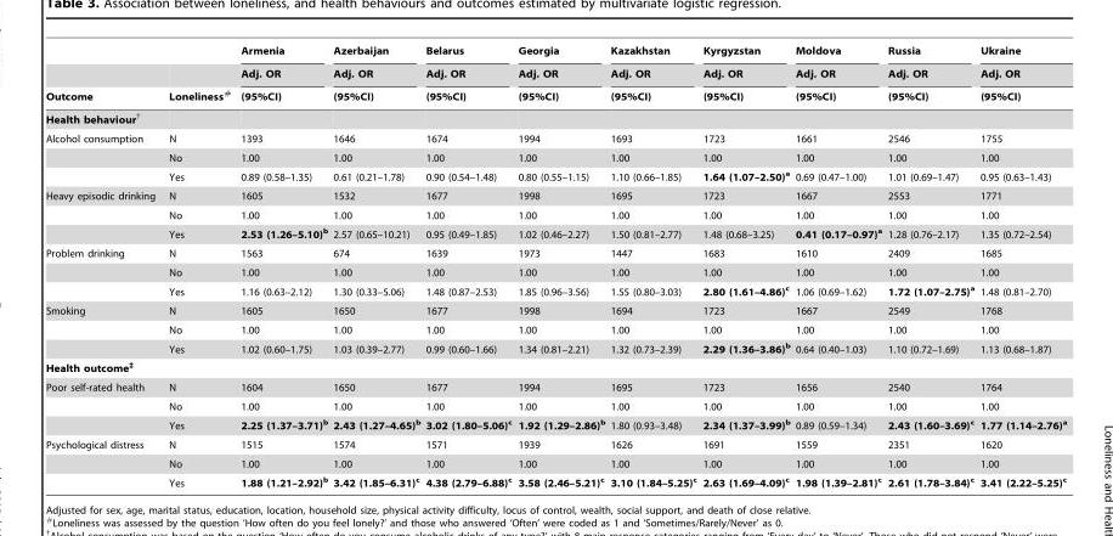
<table><thead><tr><td rowspan="3">Outcome</td><td rowspan="3">Loneliness#</td><td rowspan="3">Armenia Adj. OR (95%CI)</td><td rowspan="3">Azerbaijan Adj. OR (95%CI)</td><td rowspan="3">Belarus Adj. OR (95%CI)</td><td rowspan="3">Georgia Adj. OR (95%CI)</td><td rowspan="3">Kazakhstan Adj. OR (95%CI)</td><td rowspan="3">Kyrgyzstan Adj. OR (95%CI)</td><td rowspan="3">Moldova Adj. OR (95%CI)</td><td rowspan="3">Russia Adj. OR (95%CI)</td><td rowspan="3">Ukraine Adj. OR (95%CI)</td></tr><tr></tr><tr></tr></thead><tbody><tr><td colspan="11">Health behaviour†</td></tr><tr><td rowspan="3">Alcohol consumption</td><td>N</td><td>1393</td><td>1646</td><td>1674</td><td>1994</td><td>1693</td><td>1723</td><td>1661</td><td>2546</td><td>1755</td></tr><tr><td>No</td><td>1.00</td><td>1.00</td><td>1.00</td><td>1.00</td><td>1.00</td><td>1.00</td><td>1.00</td><td>1.00</td><td>1.00</td></tr><tr><td>Yes</td><td>0.89 (0.58–1.35)</td><td>0.61 (0.21–1.78)</td><td>0.90 (0.54–1.48)</td><td>0.80 (0.55–1.15)</td><td>1.10 (0.66–1.85)</td><td>1.64 (1.07–2.50)a</td><td>0.69 (0.47–1.00)</td><td>1.01 (0.69–1.47)</td><td>0.95 (0.63–1.43)</td></tr><tr><td rowspan="3">Heavy episodic drinking</td><td>N</td><td>1605</td><td>1532</td><td>1677</td><td>1998</td><td>1695</td><td>1723</td><td>1667</td><td>2553</td><td>1771</td></tr><tr><td>No</td><td>1.00</td><td>1.00</td><td>1.00</td><td>1.00</td><td>1.00</td><td>1.00</td><td>1.00</td><td>1.00</td><td>1.00</td></tr><tr><td>Yes</td><td>2.53 (1.26–5.10)<sup>b</sup></td><td>2.57 (0.65–10.21)</td><td>0.95 (0.49–1.85)</td><td>1.02 (0.46–2.27)</td><td>1.50 (0.81–2.77)</td><td>1.48 (0.68–3.25)</td><td>0.41 (0.17–0.97)a</td><td>1.28 (0.76–2.17)</td><td>1.35 (0.72–2.54)</td></tr><tr><td rowspan="3">Problem drinking</td><td>N</td><td>1563</td><td>674</td><td>1639</td><td>1973</td><td>1447</td><td>1683</td><td>1610</td><td>2409</td><td>1685</td></tr><tr><td>No</td><td>1.00</td><td>1.00</td><td>1.00</td><td>1.00</td><td>1.00</td><td>1.00</td><td>1.00</td><td>1.00</td><td>1.00</td></tr><tr><td>Yes</td><td>1.16 (0.63–2.12)</td><td>1.30 (0.33–5.06)</td><td>1.48 (0.87–2.53)</td><td>1.85 (0.96–3.56)</td><td>1.55 (0.80–3.03)</td><td>2.80 (1.61–4.86)<sup>c</sup></td><td>1.06 (0.69–1.62)</td><td>1.72 (1.07–2.75)a</td><td>1.48 (0.81–2.70)</td></tr><tr><td rowspan="3">Smoking</td><td>N</td><td>1605</td><td>1650</td><td>1677</td><td>1998</td><td>1694</td><td>1723</td><td>1667</td><td>2549</td><td>1768</td></tr><tr><td>No</td><td>1.00</td><td>1.00</td><td>1.00</td><td>1.00</td><td>1.00</td><td>1.00</td><td>1.00</td><td>1.00</td><td>1.00</td></tr><tr><td>Yes</td><td>1.02 (0.60–1.75)</td><td>1.03 (0.39–2.77)</td><td>0.99 (0.60–1.66)</td><td>1.34 (0.81–2.21)</td><td>1.32 (0.73–2.39)</td><td>2.29 (1.36–3.86)<sup>b</sup></td><td>0.64 (0.40–1.03)</td><td>1.10 (0.72–1.69)</td><td>1.13 (0.68–1.87)</td></tr><tr><td colspan="11">Health outcome‡</td></tr><tr><td rowspan="3">Poor self-rated health</td><td>N</td><td>1604</td><td>1650</td><td>1677</td><td>1994</td><td>1695</td><td>1723</td><td>1656</td><td>2540</td><td>1764</td></tr><tr><td>No</td><td>1.00</td><td>1.00</td><td>1.00</td><td>1.00</td><td>1.00</td><td>1.00</td><td>1.00</td><td>1.00</td><td>1.00</td></tr><tr><td>Yes</td><td>2.25 (1.37–3.71)<sup>b</sup></td><td>2.43 (1.27–4.65)<sup>b</sup></td><td>3.02 (1.80–5.06)<sup>c</sup></td><td>1.92 (1.29–2.86)<sup>b</sup></td><td>1.80 (0.93–3.48)</td><td>2.34 (1.37–3.99)<sup>b</sup></td><td>0.89 (0.59–1.34)</td><td>2.43 (1.60–3.69)<sup>c</sup></td><td>1.77 (1.14–2.76)a</td></tr><tr><td rowspan="3">Psychological distress</td><td>N</td><td>1515</td><td>1574</td><td>1571</td><td>1939</td><td>1626</td><td>1691</td><td>1559</td><td>2351</td><td>1620</td></tr><tr><td>No</td><td>1.00</td><td>1.00</td><td>1.00</td><td>1.00</td><td>1.00</td><td>1.00</td><td>1.00</td><td>1.00</td><td>1.00</td></tr><tr><td>Yes</td><td>1.88 (1.21–2.92)<sup>b</sup></td><td>3.42 (1.85–6.31)<sup>c</sup></td><td>4.38 (2.79–6.88)<sup>c</sup></td><td>3.58 (2.46–5.21)<sup>c</sup></td><td>3.10 (1.84–5.25)<sup>c</sup></td><td>2.63 (1.69–4.09)<sup>c</sup></td><td>1.98 (1.39–2.81)<sup>c</sup></td><td>2.61 (1.78–3.84)<sup>c</sup></td><td>3.41 (2.22–5.25)<sup>c</sup></td></tr></tbody></table>